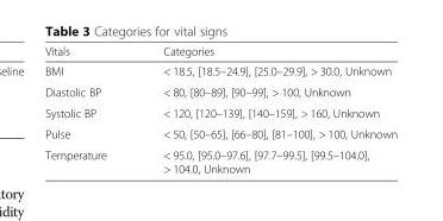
<table><thead><tr><td>Vitals</td><td>Categories</td></tr></thead><tbody><tr><td>BMI</td><td>&lt; 18.5, [18.5–24.9], [25.0–29.9], &gt; 30.0, Unknown</td></tr><tr><td>Diastolic BP</td><td>&lt; 80, [80–89], [90–99], &gt; 100, Unknown</td></tr><tr><td>Systolic BP</td><td>&lt; 120, [120–139], [140–159], &gt; 160, Unknown</td></tr><tr><td>Pulse</td><td>&lt; 50, [50–65], [66–80], [81–100], &gt; 100, Unknown</td></tr><tr><td>Temperature</td><td>&lt; 95.0, [95.0–97.6], [97.7–99.5], [99.5–104.0], &gt; 104.0, Unknown</td></tr></tbody></table>